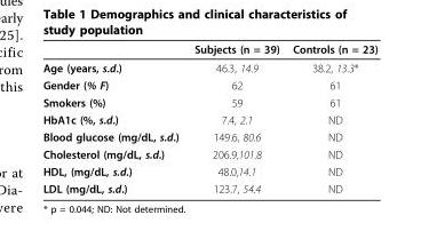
<table><thead><tr><td></td><td>Subjects (n = 39)</td><td>Controls (n = 23)</td></tr></thead><tbody><tr><td>Age (years, s.d.)</td><td>46.3, 14.9</td><td>38.2, 13.3*</td></tr><tr><td>Gender (% F)</td><td>62</td><td>61</td></tr><tr><td>Smokers (%)</td><td>59</td><td>61</td></tr><tr><td>HbA1c (%, s.d.)</td><td>7.4, 2.1</td><td>ND</td></tr><tr><td>Blood glucose (mg/dL, s.d.)</td><td>149.6, 80.6</td><td>ND</td></tr><tr><td>Cholesterol (mg/dL, s.d.)</td><td>206.9,101.8</td><td>ND</td></tr><tr><td>HDL, (mg/dL, s.d.)</td><td>48.0,14.1</td><td>ND</td></tr><tr><td>LDL (mg/dL, s.d.)</td><td>123.7, 54.4</td><td>ND</td></tr></tbody></table>